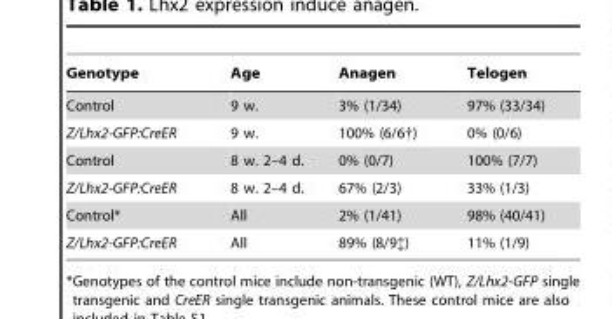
<table><thead><tr><td>Genotype</td><td>Age</td><td>Anagen</td><td>Telogen</td></tr></thead><tbody><tr><td>Control</td><td>9 w.</td><td>3% (1/34)</td><td>97% (33/34)</td></tr><tr><td>Z/Lhx2-GFP:CreER</td><td>9 w.</td><td>100% (6/6†)</td><td>0% (0/6)</td></tr><tr><td>Control</td><td>8 w. 2–4 d.</td><td>0% (0/7)</td><td>100% (7/7)</td></tr><tr><td>Z/Lhx2-GFP:CreER</td><td>8 w. 2–4 d.</td><td>67% (2/3)</td><td>33% (1/3)</td></tr><tr><td>Control*</td><td>All</td><td>2% (1/41)</td><td>98% (40/41)</td></tr><tr><td>Z/Lhx2-GFP:CreER</td><td>All</td><td>89% (8/9‡)</td><td>11% (1/9)</td></tr></tbody></table>